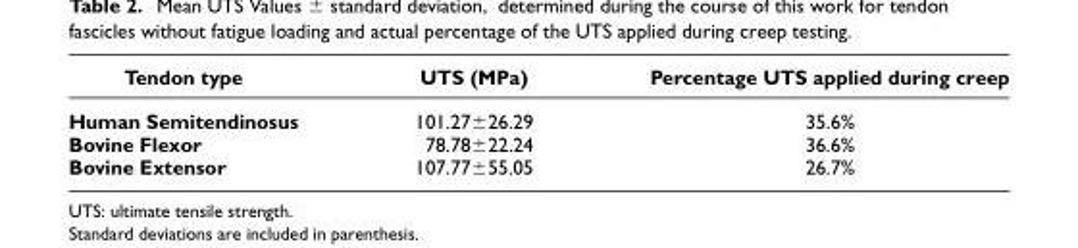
<table><thead><tr><td>Tendon type</td><td>UTS (MPa)</td><td>Percentage UTS applied during creep</td></tr></thead><tbody><tr><td>Human Semitendinosus</td><td>101.27±26.29</td><td>35.6%</td></tr><tr><td>Bovine Flexor</td><td>78.78±22.24</td><td>36.6%</td></tr><tr><td>Bovine Extensor</td><td>107.77±55.05</td><td>26.7%</td></tr></tbody></table>